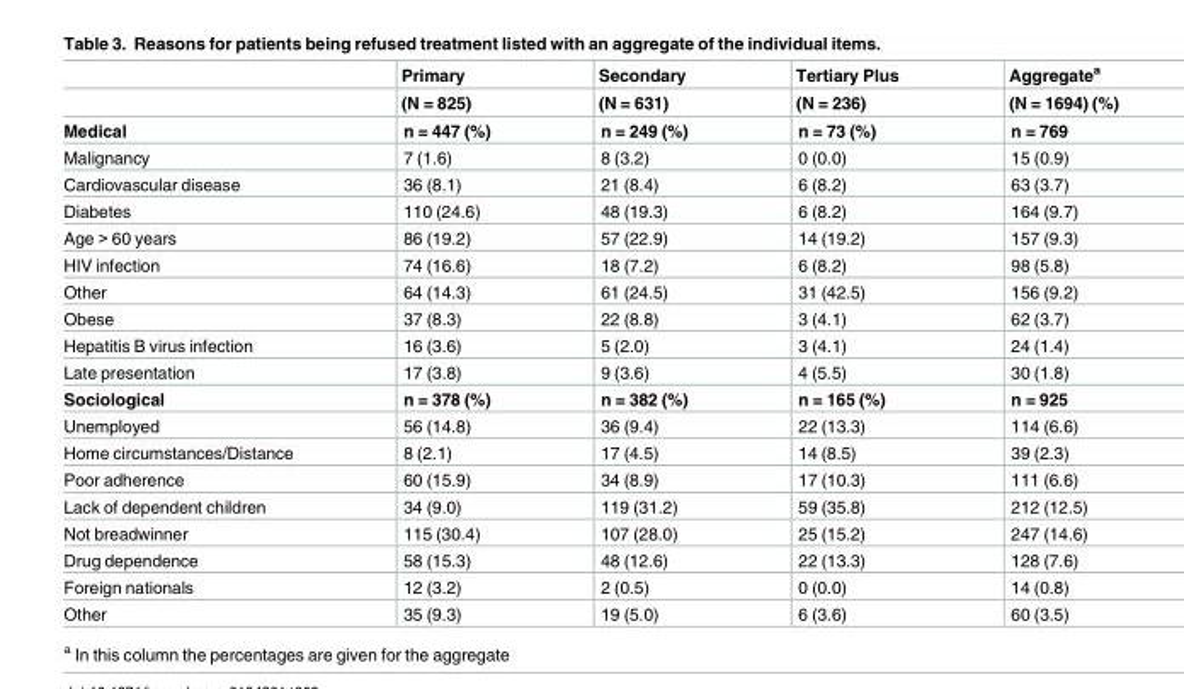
<table><thead><tr><td rowspan="2"></td><td rowspan="2">Primary (N = 825)</td><td rowspan="2">Secondary (N = 631)</td><td rowspan="2">Tertiary Plus (N = 236)</td><td rowspan="2">Aggregate<sup>a</sup> (N = 1694) (%)</td></tr><tr></tr></thead><tbody><tr><td>Medical</td><td>n = 447 (%)</td><td>n = 249 (%)</td><td>n = 73 (%)</td><td>n = 769</td></tr><tr><td>Malignancy</td><td>7 (1.6)</td><td>8 (3.2)</td><td>0 (0.0)</td><td>15 (0.9)</td></tr><tr><td>Cardiovascular disease</td><td>36 (8.1)</td><td>21 (8.4)</td><td>6 (8.2)</td><td>63 (3.7)</td></tr><tr><td>Diabetes</td><td>110 (24.6)</td><td>48 (19.3)</td><td>6 (8.2)</td><td>164 (9.7)</td></tr><tr><td>Age &gt; 60 years</td><td>86 (19.2)</td><td>57 (22.9)</td><td>14 (19.2)</td><td>157 (9.3)</td></tr><tr><td>HIV infection</td><td>74 (16.6)</td><td>18 (7.2)</td><td>6 (8.2)</td><td>98 (5.8)</td></tr><tr><td>Other</td><td>64 (14.3)</td><td>61 (24.5)</td><td>31 (42.5)</td><td>156 (9.2)</td></tr><tr><td>Obese</td><td>37 (8.3)</td><td>22 (8.8)</td><td>3 (4.1)</td><td>62 (3.7)</td></tr><tr><td>Hepatitis B virus infection</td><td>16 (3.6)</td><td>5 (2.0)</td><td>3 (4.1)</td><td>24 (1.4)</td></tr><tr><td>Late presentation</td><td>17 (3.8)</td><td>9 (3.6)</td><td>4 (5.5)</td><td>30 (1.8)</td></tr><tr><td>Sociological</td><td>n = 378 (%)</td><td>n = 382 (%)</td><td>n = 165 (%)</td><td>n = 925</td></tr><tr><td>Unemployed</td><td>56 (14.8)</td><td>36 (9.4)</td><td>22 (13.3)</td><td>114 (6.6)</td></tr><tr><td>Home circumstances/Distance</td><td>8 (2.1)</td><td>17 (4.5)</td><td>14 (8.5)</td><td>39 (2.3)</td></tr><tr><td>Poor adherence</td><td>60 (15.9)</td><td>34 (8.9)</td><td>17 (10.3)</td><td>111 (6.6)</td></tr><tr><td>Lack of dependent children</td><td>34 (9.0)</td><td>119 (31.2)</td><td>59 (35.8)</td><td>212 (12.5)</td></tr><tr><td>Not breadwinner</td><td>115 (30.4)</td><td>107 (28.0)</td><td>25 (15.2)</td><td>247 (14.6)</td></tr><tr><td>Drug dependence</td><td>58 (15.3)</td><td>48 (12.6)</td><td>22 (13.3)</td><td>128 (7.6)</td></tr><tr><td>Foreign nationals</td><td>12 (3.2)</td><td>2 (0.5)</td><td>0 (0.0)</td><td>14 (0.8)</td></tr><tr><td>Other</td><td>35 (9.3)</td><td>19 (5.0)</td><td>6 (3.6)</td><td>60 (3.5)</td></tr></tbody></table>